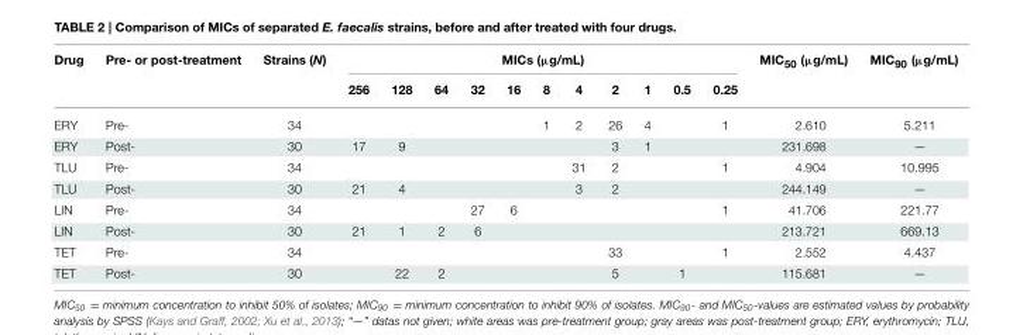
<table><thead><tr><td rowspan="2">Drug</td><td rowspan="2">Pre- or post-treatment</td><td rowspan="2">Strains (N)</td><td colspan="11">MICs (µg/mL)</td><td rowspan="2">MIC<sub>50</sub> (µg/mL)</td><td rowspan="2">MIC<sub>90</sub> (µg/mL)</td></tr><tr><td>256</td><td>128</td><td>64</td><td>32</td><td>16</td><td>8</td><td>4</td><td>2</td><td>1</td><td>0.5</td><td>0.25</td></tr></thead><tbody><tr><td>ERY</td><td>Pre-</td><td>34</td><td></td><td></td><td></td><td></td><td></td><td>1</td><td>2</td><td>26</td><td>4</td><td></td><td>1</td><td>2.610</td><td>5.211</td></tr><tr><td>ERY</td><td>Post-</td><td>30</td><td>17</td><td>9</td><td></td><td></td><td></td><td></td><td></td><td>3</td><td>1</td><td></td><td></td><td>231.698</td><td>—</td></tr><tr><td>TLU</td><td>Pre-</td><td>34</td><td></td><td></td><td></td><td></td><td></td><td></td><td>31</td><td>2</td><td></td><td></td><td>1</td><td>4.904</td><td>10.995</td></tr><tr><td>TLU</td><td>Post-</td><td>30</td><td>21</td><td>4</td><td></td><td></td><td></td><td></td><td>3</td><td>2</td><td></td><td></td><td></td><td>244.149</td><td>—</td></tr><tr><td>LIN</td><td>Pre-</td><td>34</td><td></td><td></td><td></td><td>27</td><td>6</td><td></td><td></td><td></td><td></td><td></td><td>1</td><td>41.706</td><td>221.77</td></tr><tr><td>LIN</td><td>Post-</td><td>30</td><td>21</td><td>1</td><td>2</td><td>6</td><td></td><td></td><td></td><td></td><td></td><td></td><td></td><td>213.721</td><td>669.13</td></tr><tr><td>TET</td><td>Pre-</td><td>34</td><td></td><td></td><td></td><td></td><td></td><td></td><td></td><td>33</td><td></td><td></td><td>1</td><td>2.552</td><td>4.437</td></tr><tr><td>TET</td><td>Post-</td><td>30</td><td></td><td>22</td><td>2</td><td></td><td></td><td></td><td></td><td>5</td><td></td><td>1</td><td></td><td>115.681</td><td>—</td></tr></tbody></table>